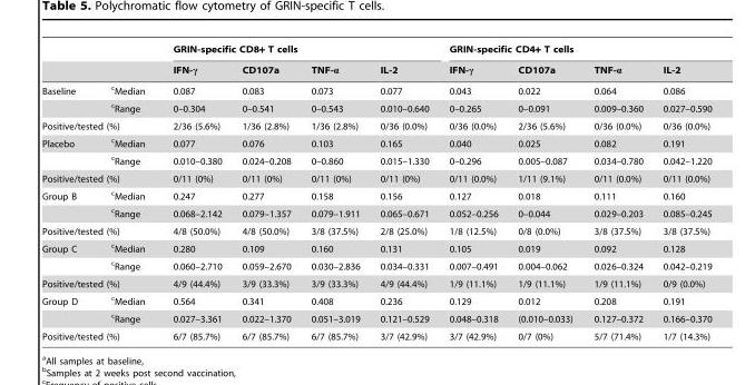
<table><thead><tr><td rowspan="2"></td><td rowspan="2"></td><td colspan="4">GRIN-specific CD8+ T cells</td><td colspan="4">GRIN-specific CD4+ T cells</td></tr><tr><td>IFN-γ</td><td>CD107a</td><td>TNF-α</td><td>IL-2</td><td>IFN-γ</td><td>CD107a</td><td>TNF-α</td><td>IL-2</td></tr></thead><tbody><tr><td rowspan="2">Baseline</td><td>cMedian</td><td>0.087</td><td>0.083</td><td>0.073</td><td>0.077</td><td>0.043</td><td>0.022</td><td>0.064</td><td>0.086</td></tr><tr><td>cRange</td><td>0–0.304</td><td>0–0.541</td><td>0–0.543</td><td>0.010–0.640</td><td>0–0.265</td><td>0–0.091</td><td>0.009–0.360</td><td>0.027–0.590</td></tr><tr><td colspan="2">Positive/tested (%)</td><td>2/36 (5.6%)</td><td>1/36 (2.8%)</td><td>1/36 (2.8%)</td><td>0/36 (0.0%)</td><td>0/36 (0.0%)</td><td>2/36 (5.6%)</td><td>0/36 (0.0%)</td><td>0/36 (0.0%)</td></tr><tr><td rowspan="2">Placebo</td><td>cMedian</td><td>0.077</td><td>0.076</td><td>0.103</td><td>0.165</td><td>0.040</td><td>0.025</td><td>0.082</td><td>0.191</td></tr><tr><td>cRange</td><td>0.010–0.380</td><td>0.024–0.208</td><td>0–0.860</td><td>0.015–1.330</td><td>0–0.296</td><td>0.005–0.087</td><td>0.034–0.780</td><td>0.042–1.220</td></tr><tr><td colspan="2">Positive/tested (%)</td><td>0/11 (0%)</td><td>0/11 (0%)</td><td>0/11 (0%)</td><td>0/11 (0%)</td><td>0/11 (0.0%)</td><td>1/11 (9.1%)</td><td>0/11 (0.0%)</td><td>0/11 (0.0%)</td></tr><tr><td rowspan="2">Group B</td><td>cMedian</td><td>0.247</td><td>0.277</td><td>0.158</td><td>0.156</td><td>0.127</td><td>0.018</td><td>0.111</td><td>0.160</td></tr><tr><td>cRange</td><td>0.068–2.142</td><td>0.079–1.357</td><td>0.079–1.911</td><td>0.065–0.671</td><td>0.052–0.256</td><td>0–0.044</td><td>0.029–0.203</td><td>0.085–0.245</td></tr><tr><td colspan="2">Positive/tested (%)</td><td>4/8 (50.0%)</td><td>4/8 (50.0%)</td><td>3/8 (37.5%)</td><td>2/8 (25.0%)</td><td>1/8 (12.5%)</td><td>0/8 (0.0%)</td><td>3/8 (37.5%)</td><td>3/8 (37.5%)</td></tr><tr><td rowspan="2">Group C</td><td>cMedian</td><td>0.280</td><td>0.109</td><td>0.160</td><td>0.131</td><td>0.105</td><td>0.019</td><td>0.092</td><td>0.128</td></tr><tr><td>cRange</td><td>0.060–2.710</td><td>0.059–2.670</td><td>0.030–2.836</td><td>0.034–0.331</td><td>0.007–0.491</td><td>0.004–0.062</td><td>0.026–0.324</td><td>0.042–0.219</td></tr><tr><td colspan="2">Positive/tested (%)</td><td>4/9 (44.4%)</td><td>3/9 (33.3%)</td><td>3/9 (33.3%)</td><td>4/9 (44.4%)</td><td>1/9 (11.1%)</td><td>1/9 (11.1%)</td><td>1/9 (11.1%)</td><td>0/9 (0.0%)</td></tr><tr><td rowspan="2">Group D</td><td>cMedian</td><td>0.564</td><td>0.341</td><td>0.408</td><td>0.236</td><td>0.129</td><td>0.012</td><td>0.208</td><td>0.191</td></tr><tr><td>cRange</td><td>0.027–3.361</td><td>0.022–1.370</td><td>0.051–3.019</td><td>0.121–0.529</td><td>0.048–0.318</td><td>(0.010–0.033)</td><td>0.127–0.372</td><td>0.166–0.370</td></tr><tr><td colspan="2">Positive/tested (%)</td><td>6/7 (85.7%)</td><td>6/7 (85.7%)</td><td>6/7 (85.7%)</td><td>3/7 (42.9%)</td><td>3/7 (42.9%)</td><td>0/7 (0%)</td><td>5/7 (71.4%)</td><td>1/7 (14.3%)</td></tr></tbody></table>